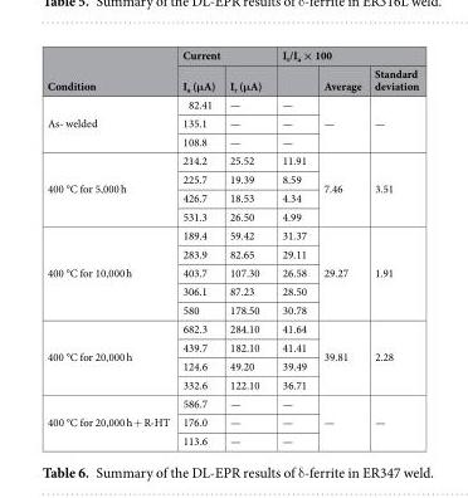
<table><thead><tr><td rowspan="2">Condition</td><td colspan="2">Current</td><td colspan="3">I<sub>r</sub>/I<sub>a</sub> × 100</td></tr><tr><td>I<sub>a</sub> (μA)</td><td>I<sub>r</sub> (μA)</td><td></td><td>Average</td><td>Standard deviation</td></tr></thead><tbody><tr><td rowspan="3">As- welded</td><td>82.41</td><td>—</td><td>—</td><td rowspan="3">—</td><td rowspan="3">—</td></tr><tr><td>135.1</td><td>—</td><td>—</td></tr><tr><td>108.8</td><td>—</td><td>—</td></tr><tr><td rowspan="4">400 °C for 5,000 h</td><td>214.2</td><td>25.52</td><td>11.91</td><td rowspan="4">7.46</td><td rowspan="4">3.51</td></tr><tr><td>225.7</td><td>19.39</td><td>8.59</td></tr><tr><td>426.7</td><td>18.53</td><td>4.34</td></tr><tr><td>531.3</td><td>26.50</td><td>4.99</td></tr><tr><td rowspan="5">400 °C for 10,000 h</td><td>189.4</td><td>59.42</td><td>31.37</td><td rowspan="5">29.27</td><td rowspan="5">1.91</td></tr><tr><td>283.9</td><td>82.65</td><td>29.11</td></tr><tr><td>403.7</td><td>107.30</td><td>26.58</td></tr><tr><td>306.1</td><td>87.23</td><td>28.50</td></tr><tr><td>580</td><td>178.50</td><td>30.78</td></tr><tr><td rowspan="4">400 °C for 20,000 h</td><td>682.3</td><td>284.10</td><td>41.64</td><td rowspan="4">39.81</td><td rowspan="4">2.28</td></tr><tr><td>439.7</td><td>182.10</td><td>41.41</td></tr><tr><td>124.6</td><td>49.20</td><td>39.49</td></tr><tr><td>332.6</td><td>122.10</td><td>36.71</td></tr><tr><td rowspan="3">400 °C for 20,000 h + R-HT</td><td>586.7</td><td>—</td><td>—</td><td rowspan="3">—</td><td rowspan="3">—</td></tr><tr><td>176.0</td><td>—</td><td>—</td></tr><tr><td>113.6</td><td>—</td><td>—</td></tr></tbody></table>